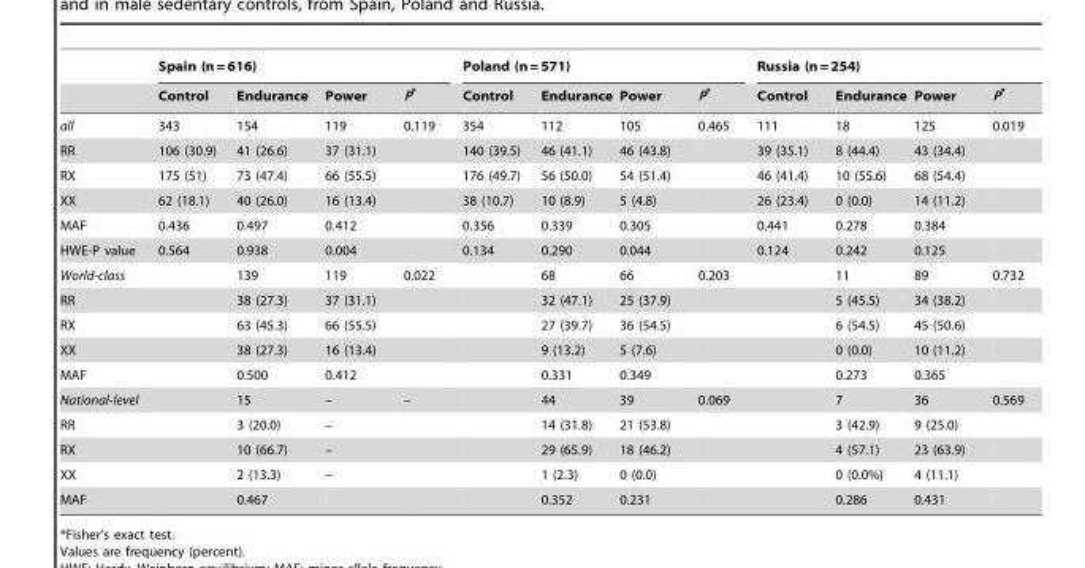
<table><thead><tr><td rowspan="2"></td><td colspan="4">Spain (n = 616)</td><td colspan="4">Poland (n = 571)</td><td colspan="4">Russia (n = 254)</td></tr><tr><td>Control</td><td>Endurance</td><td>Power</td><td>P*</td><td>Control</td><td>Endurance</td><td>Power</td><td>P*</td><td>Control</td><td>Endurance</td><td>Power</td><td>P*</td></tr></thead><tbody><tr><td>all</td><td>343</td><td>154</td><td>119</td><td>0.119</td><td>354</td><td>112</td><td>105</td><td>0.465</td><td>111</td><td>18</td><td>125</td><td>0.019</td></tr><tr><td>RR</td><td>106 (30.9)</td><td>41 (26.6)</td><td>37 (31.1)</td><td></td><td>140 (39.5)</td><td>46 (41.1)</td><td>46 (43.8)</td><td></td><td>39 (35.1)</td><td>8 (44.4)</td><td>43 (34.4)</td><td></td></tr><tr><td>RX</td><td>175 (51)</td><td>73 (47.4)</td><td>66 (55.5)</td><td></td><td>176 (49.7)</td><td>56 (50.0)</td><td>54 (51.4)</td><td></td><td>46 (41.4)</td><td>10 (55.6)</td><td>68 (54.4)</td><td></td></tr><tr><td>XX</td><td>62 (18.1)</td><td>40 (26.0)</td><td>16 (13.4)</td><td></td><td>38 (10.7)</td><td>10 (8.9)</td><td>5 (4.8)</td><td></td><td>26 (23.4)</td><td>0 (0.0)</td><td>14 (11.2)</td><td></td></tr><tr><td>MAF</td><td>0.436</td><td>0.497</td><td>0.412</td><td></td><td>0.356</td><td>0.339</td><td>0.305</td><td></td><td>0.441</td><td>0.278</td><td>0.384</td><td></td></tr><tr><td>HWE-P value</td><td>0.564</td><td>0.938</td><td>0.004</td><td></td><td>0.134</td><td>0.290</td><td>0.044</td><td></td><td>0.124</td><td>0.242</td><td>0.125</td><td></td></tr><tr><td>World-class</td><td></td><td>139</td><td>119</td><td>0.022</td><td></td><td>68</td><td>66</td><td>0.203</td><td></td><td>11</td><td>89</td><td>0.732</td></tr><tr><td>RR</td><td></td><td>38 (27.3)</td><td>37 (31.1)</td><td></td><td></td><td>32 (47.1)</td><td>25 (37.9)</td><td></td><td></td><td>5 (45.5)</td><td>34 (38.2)</td><td></td></tr><tr><td>RX</td><td></td><td>63 (45.3)</td><td>66 (55.5)</td><td></td><td></td><td>27 (39.7)</td><td>36 (54.5)</td><td></td><td></td><td>6 (54.5)</td><td>45 (50.6)</td><td></td></tr><tr><td>XX</td><td></td><td>38 (27.3)</td><td>16 (13.4)</td><td></td><td></td><td>9 (13.2)</td><td>5 (7.6)</td><td></td><td></td><td>0 (0.0)</td><td>10 (11.2)</td><td></td></tr><tr><td>MAF</td><td></td><td>0.500</td><td>0.412</td><td></td><td></td><td>0.331</td><td>0.349</td><td></td><td></td><td>0.273</td><td>0.365</td><td></td></tr><tr><td>National-level</td><td></td><td>15</td><td>–</td><td>–</td><td></td><td>44</td><td>39</td><td>0.069</td><td></td><td>7</td><td>36</td><td>0.569</td></tr><tr><td>RR</td><td></td><td>3 (20.0)</td><td>–</td><td></td><td></td><td>14 (31.8)</td><td>21 (53.8)</td><td></td><td></td><td>3 (42.9)</td><td>9 (25.0)</td><td></td></tr><tr><td>RX</td><td></td><td>10 (66.7)</td><td>–</td><td></td><td></td><td>29 (65.9)</td><td>18 (46.2)</td><td></td><td></td><td>4 (57.1)</td><td>23 (63.9)</td><td></td></tr><tr><td>XX</td><td></td><td>2 (13.3)</td><td>–</td><td></td><td></td><td>1 (2.3)</td><td>0 (0.0)</td><td></td><td></td><td>0 (0.0%)</td><td>4 (11.1)</td><td></td></tr><tr><td>MAF</td><td></td><td>0.467</td><td></td><td></td><td></td><td>0.352</td><td>0.231</td><td></td><td></td><td>0.286</td><td>0.431</td><td></td></tr></tbody></table>